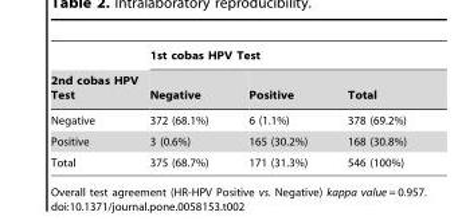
<table><thead><tr><td rowspan="2">2nd cobas HPV Test</td><td colspan="3">1st cobas HPV Test</td></tr><tr><td>Negative</td><td>Positive</td><td>Total</td></tr></thead><tbody><tr><td>Negative</td><td>372 (68.1%)</td><td>6 (1.1%)</td><td>378 (69.2%)</td></tr><tr><td>Positive</td><td>3 (0.6%)</td><td>165 (30.2%)</td><td>168 (30.8%)</td></tr><tr><td>Total</td><td>375 (68.7%)</td><td>171 (31.3%)</td><td>546 (100%)</td></tr></tbody></table>